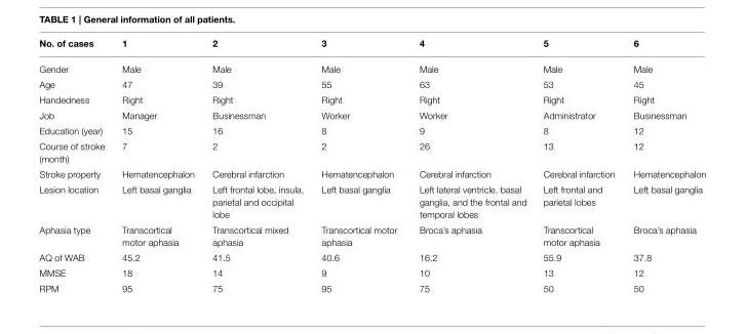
<table><thead><tr><td>No. of cases</td><td>1</td><td>2</td><td>3</td><td>4</td><td>5</td><td>6</td></tr></thead><tbody><tr><td>Gender</td><td>Male</td><td>Male</td><td>Male</td><td>Male</td><td>Male</td><td>Male</td></tr><tr><td>Age</td><td>47</td><td>39</td><td>55</td><td>63</td><td>53</td><td>45</td></tr><tr><td>Handedness</td><td>Right</td><td>Right</td><td>Right</td><td>Right</td><td>Right</td><td>Right</td></tr><tr><td>Job</td><td>Manager</td><td>Businessman</td><td>Worker</td><td>Worker</td><td>Administrator</td><td>Businessman</td></tr><tr><td>Education (year)</td><td>15</td><td>16</td><td>8</td><td>9</td><td>8</td><td>12</td></tr><tr><td>Course of stroke (month)</td><td>7</td><td>2</td><td>2</td><td>26</td><td>13</td><td>12</td></tr><tr><td>Stroke property</td><td>Hematencephalon</td><td>Cerebral infarction</td><td>Hematencephalon</td><td>Cerebral infarction</td><td>Cerebral infarction</td><td>Hematencephalon</td></tr><tr><td>Lesion location</td><td>Left basal ganglia</td><td>Left frontal lobe, insula, parietal and occipital lobe</td><td>Left basal ganglia</td><td>Left lateral ventricle, basal ganglia, and the frontal and temporal lobes</td><td>Left frontal and parietal lobes</td><td>Left basal ganglia</td></tr><tr><td>Aphasia type</td><td>Transcortical motor aphasia</td><td>Transcortical mixed aphasia</td><td>Transcortical motor aphasia</td><td>Broca’s aphasia</td><td>Transcortical motor aphasia</td><td>Broca’s aphasia</td></tr><tr><td>AQ of WAB</td><td>45.2</td><td>41.5</td><td>40.6</td><td>16.2</td><td>55.9</td><td>37.8</td></tr><tr><td>MMSE</td><td>18</td><td>14</td><td>9</td><td>10</td><td>13</td><td>12</td></tr><tr><td>RPM</td><td>95</td><td>75</td><td>95</td><td>75</td><td>50</td><td>50</td></tr></tbody></table>